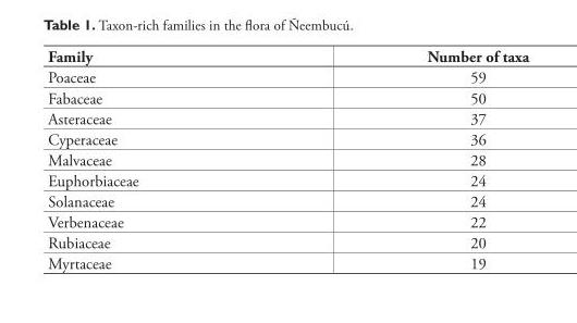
<table><thead><tr><td>Family</td><td>Number of taxa</td></tr></thead><tbody><tr><td>Poaceae</td><td>59</td></tr><tr><td>Fabaceae</td><td>50</td></tr><tr><td>Asteraceae</td><td>37</td></tr><tr><td>Cyperaceae</td><td>36</td></tr><tr><td>Malvaceae</td><td>28</td></tr><tr><td>Euphorbiaceae</td><td>24</td></tr><tr><td>Solanaceae</td><td>24</td></tr><tr><td>Verbenaceae</td><td>22</td></tr><tr><td>Rubiaceae</td><td>20</td></tr><tr><td>Myrtaceae</td><td>19</td></tr></tbody></table>